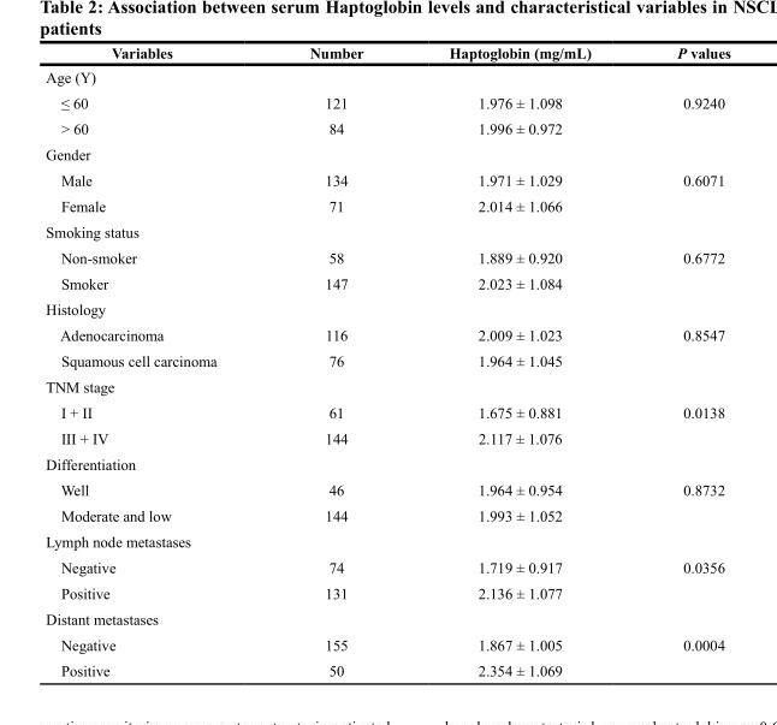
<table><thead><tr><td>Variables</td><td>Number</td><td>Haptoglobin (mg/mL)</td><td>P values</td></tr></thead><tbody><tr><td colspan="4">Age (Y)</td></tr><tr><td>≤ 60</td><td>121</td><td>1.976 ± 1.098</td><td>0.9240</td></tr><tr><td>&gt; 60</td><td>84</td><td>1.996 ± 0.972</td><td></td></tr><tr><td colspan="4">Gender</td></tr><tr><td>Male</td><td>134</td><td>1.971 ± 1.029</td><td>0.6071</td></tr><tr><td>Female</td><td>71</td><td>2.014 ± 1.066</td><td></td></tr><tr><td colspan="4">Smoking status</td></tr><tr><td>Non-smoker</td><td>58</td><td>1.889 ± 0.920</td><td>0.6772</td></tr><tr><td>Smoker</td><td>147</td><td>2.023 ± 1.084</td><td></td></tr><tr><td colspan="4">Histology</td></tr><tr><td>Adenocarcinoma</td><td>116</td><td>2.009 ± 1.023</td><td>0.8547</td></tr><tr><td>Squamous cell carcinoma</td><td>76</td><td>1.964 ± 1.045</td><td></td></tr><tr><td colspan="4">TNM stage</td></tr><tr><td>I + II</td><td>61</td><td>1.675 ± 0.881</td><td>0.0138</td></tr><tr><td>III + IV</td><td>144</td><td>2.117 ± 1.076</td><td></td></tr><tr><td colspan="4">Differentiation</td></tr><tr><td>Well</td><td>46</td><td>1.964 ± 0.954</td><td>0.8732</td></tr><tr><td>Moderate and low</td><td>144</td><td>1.993 ± 1.052</td><td></td></tr><tr><td colspan="4">Lymph node metastases</td></tr><tr><td>Negative</td><td>74</td><td>1.719 ± 0.917</td><td>0.0356</td></tr><tr><td>Positive</td><td>131</td><td>2.136 ± 1.077</td><td></td></tr><tr><td colspan="4">Distant metastases</td></tr><tr><td>Negative</td><td>155</td><td>1.867 ± 1.005</td><td>0.0004</td></tr><tr><td>Positive</td><td>50</td><td>2.354 ± 1.069</td><td></td></tr></tbody></table>